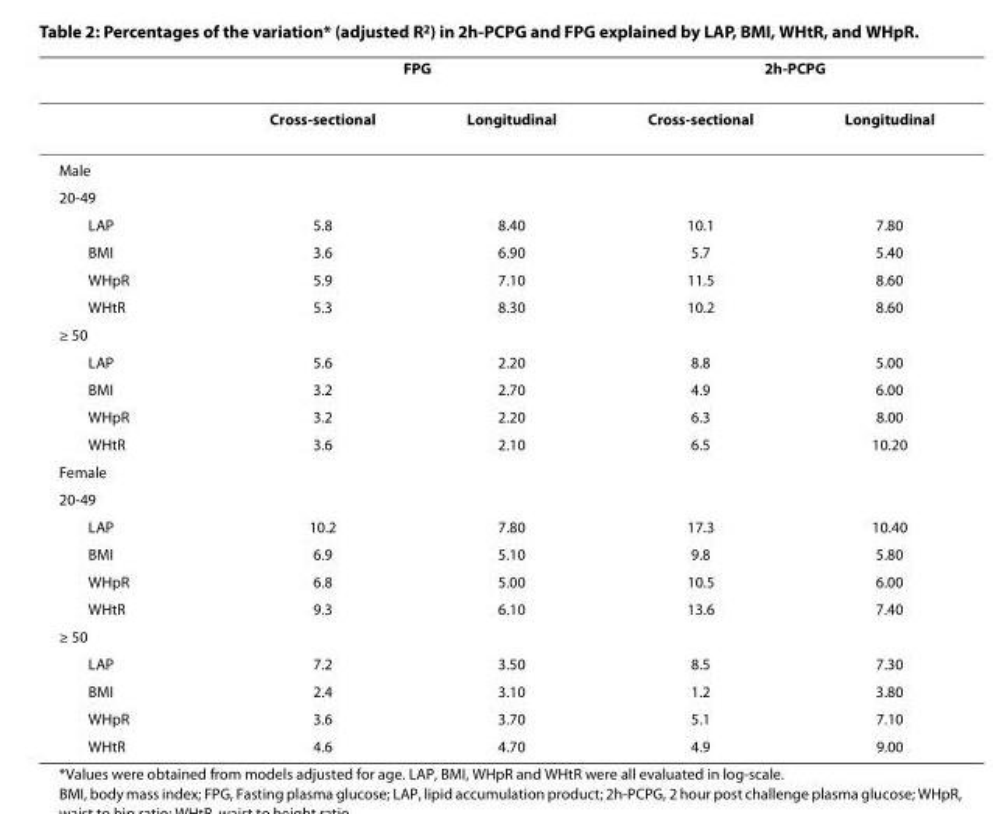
<table><thead><tr><td rowspan="2"></td><td colspan="2">FPG</td><td colspan="2">2h-PCPG</td></tr><tr><td>Cross-sectional</td><td>Longitudinal</td><td>Cross-sectional</td><td>Longitudinal</td></tr></thead><tbody><tr><td colspan="5">Male</td></tr><tr><td colspan="5">20-49</td></tr><tr><td>LAP</td><td>5.8</td><td>8.40</td><td>10.1</td><td>7.80</td></tr><tr><td>BMI</td><td>3.6</td><td>6.90</td><td>5.7</td><td>5.40</td></tr><tr><td>WHpR</td><td>5.9</td><td>7.10</td><td>11.5</td><td>8.60</td></tr><tr><td>WHtR</td><td>5.3</td><td>8.30</td><td>10.2</td><td>8.60</td></tr><tr><td colspan="5">≥ 50</td></tr><tr><td>LAP</td><td>5.6</td><td>2.20</td><td>8.8</td><td>5.00</td></tr><tr><td>BMI</td><td>3.2</td><td>2.70</td><td>4.9</td><td>6.00</td></tr><tr><td>WHpR</td><td>3.2</td><td>2.20</td><td>6.3</td><td>8.00</td></tr><tr><td>WHtR</td><td>3.6</td><td>2.10</td><td>6.5</td><td>10.20</td></tr><tr><td colspan="5">Female</td></tr><tr><td colspan="5">20-49</td></tr><tr><td>LAP</td><td>10.2</td><td>7.80</td><td>17.3</td><td>10.40</td></tr><tr><td>BMI</td><td>6.9</td><td>5.10</td><td>9.8</td><td>5.80</td></tr><tr><td>WHpR</td><td>6.8</td><td>5.00</td><td>10.5</td><td>6.00</td></tr><tr><td>WHtR</td><td>9.3</td><td>6.10</td><td>13.6</td><td>7.40</td></tr><tr><td colspan="5">≥ 50</td></tr><tr><td>LAP</td><td>7.2</td><td>3.50</td><td>8.5</td><td>7.30</td></tr><tr><td>BMI</td><td>2.4</td><td>3.10</td><td>1.2</td><td>3.80</td></tr><tr><td>WHpR</td><td>3.6</td><td>3.70</td><td>5.1</td><td>7.10</td></tr><tr><td>WHtR</td><td>4.6</td><td>4.70</td><td>4.9</td><td>9.00</td></tr></tbody></table>